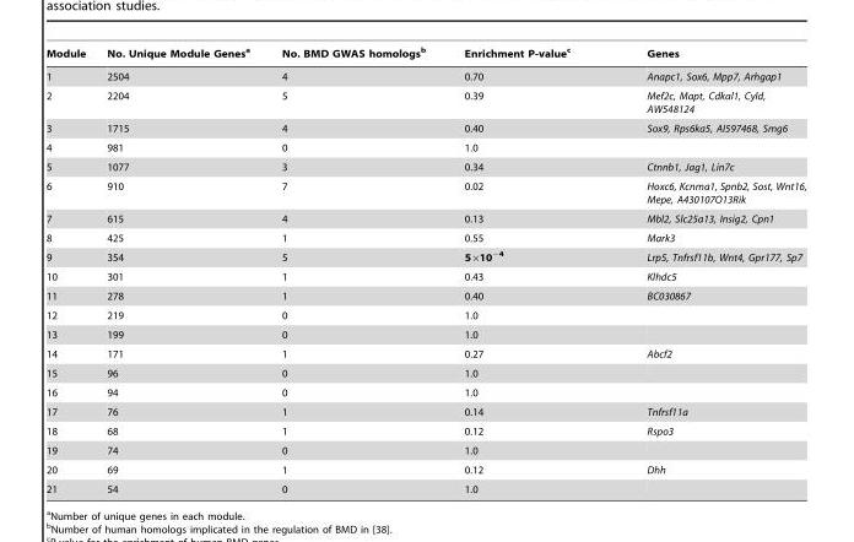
<table><thead><tr><td>Module</td><td>No. Unique Module Genes<sup>a</sup></td><td>No. BMD GWAS homologs<sup>b</sup></td><td>Enrichment P-value<sup>c</sup></td><td>Genes</td></tr></thead><tbody><tr><td>1</td><td>2504</td><td>4</td><td>0.70</td><td>Anapc1, Sox6, Mpp7, Arhgap1</td></tr><tr><td>2</td><td>2204</td><td>5</td><td>0.39</td><td>Mef2c, Mapt, Cdkal1, Cyld, AW548124</td></tr><tr><td>3</td><td>1715</td><td>4</td><td>0.40</td><td>Sox9, Rps6ka5, AI597468, Smg6</td></tr><tr><td>4</td><td>981</td><td>0</td><td>1.0</td><td></td></tr><tr><td>5</td><td>1077</td><td>3</td><td>0.34</td><td>Ctnnb1, Jag1, Lin7c</td></tr><tr><td>6</td><td>910</td><td>7</td><td>0.02</td><td>Hoxc6, Kcnma1, Spnb2, Sost, Wnt16, Mepe, A430107O13Rik</td></tr><tr><td>7</td><td>615</td><td>4</td><td>0.13</td><td>Mbl2, Slc25a13, Insig2, Cpn1</td></tr><tr><td>8</td><td>425</td><td>1</td><td>0.55</td><td>Mark3</td></tr><tr><td>9</td><td>354</td><td>5</td><td>5×10<sup>−4</sup></td><td>Lrp5, Tnfrsf11b, Wnt4, Gpr177, Sp7</td></tr><tr><td>10</td><td>301</td><td>1</td><td>0.43</td><td>Klhdc5</td></tr><tr><td>11</td><td>278</td><td>1</td><td>0.40</td><td>BC030867</td></tr><tr><td>12</td><td>219</td><td>0</td><td>1.0</td><td></td></tr><tr><td>13</td><td>199</td><td>0</td><td>1.0</td><td></td></tr><tr><td>14</td><td>171</td><td>1</td><td>0.27</td><td>Abcf2</td></tr><tr><td>15</td><td>96</td><td>0</td><td>1.0</td><td></td></tr><tr><td>16</td><td>94</td><td>0</td><td>1.0</td><td></td></tr><tr><td>17</td><td>76</td><td>1</td><td>0.14</td><td>Tnfrsf11a</td></tr><tr><td>18</td><td>68</td><td>1</td><td>0.12</td><td>Rspo3</td></tr><tr><td>19</td><td>74</td><td>0</td><td>1.0</td><td></td></tr><tr><td>20</td><td>69</td><td>1</td><td>0.12</td><td>Dhh</td></tr><tr><td>21</td><td>54</td><td>0</td><td>1.0</td><td></td></tr></tbody></table>